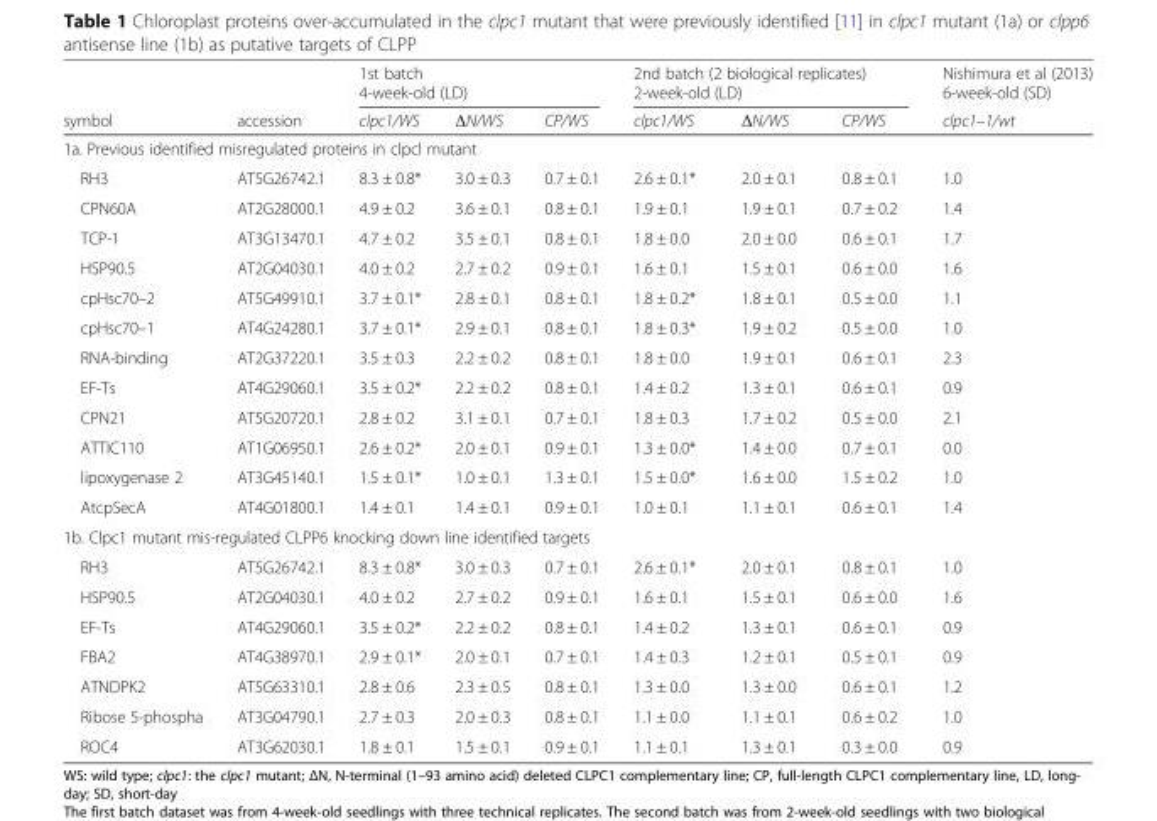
<table><thead><tr><td rowspan="2">symbol</td><td rowspan="2">accession</td><td colspan="3">1st batch 4-week-old (LD)</td><td colspan="3">2nd batch (2 biological replicates) 2-week-old (LD)</td><td rowspan="2">Nishimura et al (2013) 6-week-old (SD) clpc1–1/wt</td></tr><tr><td>clpc1/WS</td><td>ΔN/WS</td><td>CP/WS</td><td>clpc1/WS</td><td>ΔN/WS</td><td>CP/WS</td></tr></thead><tbody><tr><td colspan="9">1a. Previous identified misregulated proteins in clpcl mutant</td></tr><tr><td>RH3</td><td>AT5G26742.1</td><td>8.3 ± 0.8*</td><td>3.0 ± 0.3</td><td>0.7 ± 0.1</td><td>2.6 ± 0.1*</td><td>2.0 ± 0.1</td><td>0.8 ± 0.1</td><td>1.0</td></tr><tr><td>CPN60A</td><td>AT2G28000.1</td><td>4.9 ± 0.2</td><td>3.6 ± 0.1</td><td>0.8 ± 0.1</td><td>1.9 ± 0.1</td><td>1.9 ± 0.1</td><td>0.7 ± 0.2</td><td>1.4</td></tr><tr><td>TCP-1</td><td>AT3G13470.1</td><td>4.7 ± 0.2</td><td>3.5 ± 0.1</td><td>0.8 ± 0.1</td><td>1.8 ± 0.0</td><td>2.0 ± 0.0</td><td>0.6 ± 0.1</td><td>1.7</td></tr><tr><td>HSP90.5</td><td>AT2G04030.1</td><td>4.0 ± 0.2</td><td>2.7 ± 0.2</td><td>0.9 ± 0.1</td><td>1.6 ± 0.1</td><td>1.5 ± 0.1</td><td>0.6 ± 0.0</td><td>1.6</td></tr><tr><td>cpHsc70–2</td><td>AT5G49910.1</td><td>3.7 ± 0.1*</td><td>2.8 ± 0.1</td><td>0.8 ± 0.1</td><td>1.8 ± 0.2*</td><td>1.8 ± 0.1</td><td>0.5 ± 0.0</td><td>1.1</td></tr><tr><td>cpHsc70–1</td><td>AT4G24280.1</td><td>3.7 ± 0.1*</td><td>2.9 ± 0.1</td><td>0.8 ± 0.1</td><td>1.8 ± 0.3*</td><td>1.9 ± 0.2</td><td>0.5 ± 0.0</td><td>1.0</td></tr><tr><td>RNA-binding</td><td>AT2G37220.1</td><td>3.5 ± 0.3</td><td>2.2 ± 0.2</td><td>0.8 ± 0.1</td><td>1.8 ± 0.0</td><td>1.9 ± 0.1</td><td>0.6 ± 0.1</td><td>2.3</td></tr><tr><td>EF-Ts</td><td>AT4G29060.1</td><td>3.5 ± 0.2*</td><td>2.2 ± 0.2</td><td>0.8 ± 0.1</td><td>1.4 ± 0.2</td><td>1.3 ± 0.1</td><td>0.6 ± 0.1</td><td>0.9</td></tr><tr><td>CPN21</td><td>AT5G20720.1</td><td>2.8 ± 0.2</td><td>3.1 ± 0.1</td><td>0.7 ± 0.1</td><td>1.8 ± 0.3</td><td>1.7 ± 0.2</td><td>0.5 ± 0.0</td><td>2.1</td></tr><tr><td>ATTIC110</td><td>AT1G06950.1</td><td>2.6 ± 0.2*</td><td>2.0 ± 0.1</td><td>0.9 ± 0.1</td><td>1.3 ± 0.0*</td><td>1.4 ± 0.0</td><td>0.7 ± 0.1</td><td>0.0</td></tr><tr><td>lipoxygenase 2</td><td>AT3G45140.1</td><td>1.5 ± 0.1*</td><td>1.0 ± 0.1</td><td>1.3 ± 0.1</td><td>1.5 ± 0.0*</td><td>1.6 ± 0.0</td><td>1.5 ± 0.2</td><td>1.0</td></tr><tr><td>AtcpSecA</td><td>AT4G01800.1</td><td>1.4 ± 0.1</td><td>1.4 ± 0.1</td><td>0.9 ± 0.1</td><td>1.0 ± 0.1</td><td>1.1 ± 0.1</td><td>0.6 ± 0.1</td><td>1.4</td></tr><tr><td colspan="9">1b. Clpc1 mutant mis-regulated CLPP6 knocking down line identified targets</td></tr><tr><td>RH3</td><td>AT5G26742.1</td><td>8.3 ± 0.8*</td><td>3.0 ± 0.3</td><td>0.7 ± 0.1</td><td>2.6 ± 0.1*</td><td>2.0 ± 0.1</td><td>0.8 ± 0.1</td><td>1.0</td></tr><tr><td>HSP90.5</td><td>AT2G04030.1</td><td>4.0 ± 0.2</td><td>2.7 ± 0.2</td><td>0.9 ± 0.1</td><td>1.6 ± 0.1</td><td>1.5 ± 0.1</td><td>0.6 ± 0.0</td><td>1.6</td></tr><tr><td>EF-Ts</td><td>AT4G29060.1</td><td>3.5 ± 0.2*</td><td>2.2 ± 0.2</td><td>0.8 ± 0.1</td><td>1.4 ± 0.2</td><td>1.3 ± 0.1</td><td>0.6 ± 0.1</td><td>0.9</td></tr><tr><td>FBA2</td><td>AT4G38970.1</td><td>2.9 ± 0.1*</td><td>2.0 ± 0.1</td><td>0.7 ± 0.1</td><td>1.4 ± 0.3</td><td>1.2 ± 0.1</td><td>0.5 ± 0.1</td><td>0.9</td></tr><tr><td>ATNDPK2</td><td>AT5G63310.1</td><td>2.8 ± 0.6</td><td>2.3 ± 0.5</td><td>0.8 ± 0.1</td><td>1.3 ± 0.0</td><td>1.3 ± 0.0</td><td>0.6 ± 0.1</td><td>1.2</td></tr><tr><td>Ribose 5-phospha</td><td>AT3G04790.1</td><td>2.7 ± 0.3</td><td>2.0 ± 0.3</td><td>0.8 ± 0.1</td><td>1.1 ± 0.0</td><td>1.1 ± 0.1</td><td>0.6 ± 0.2</td><td>1.0</td></tr><tr><td>ROC4</td><td>AT3G62030.1</td><td>1.8 ± 0.1</td><td>1.5 ± 0.1</td><td>0.9 ± 0.1</td><td>1.1 ± 0.1</td><td>1.3 ± 0.1</td><td>0.3 ± 0.0</td><td>0.9</td></tr></tbody></table>